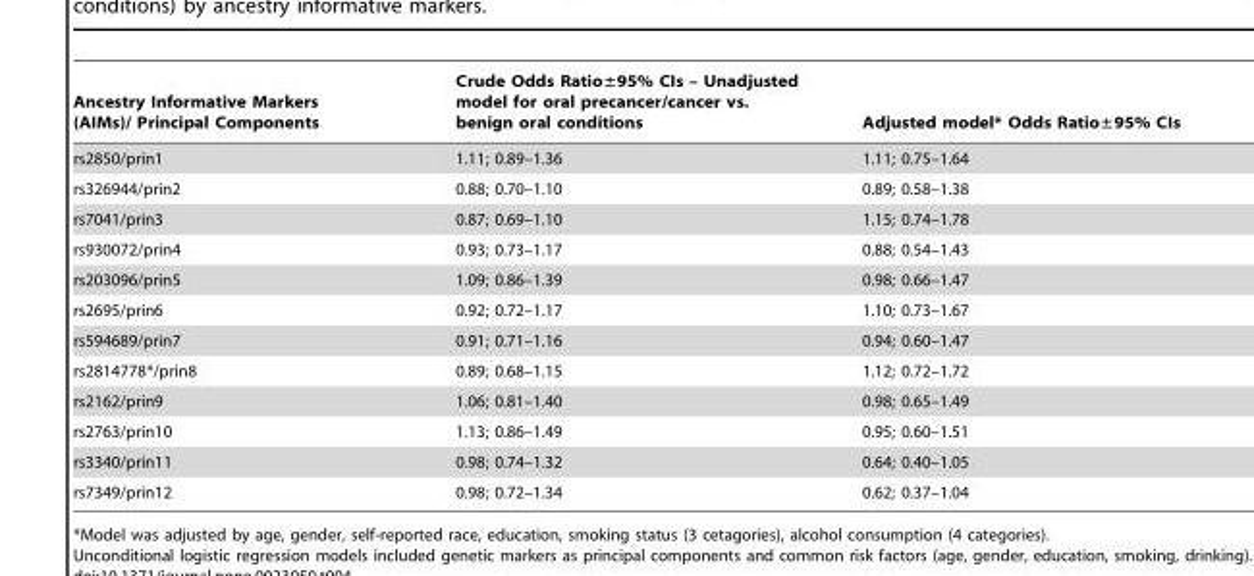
<table><thead><tr><td>Ancestry Informative Markers (AIMs)/ Principal Components</td><td>Crude Odds Ratio±95% CIs – Unadjusted model for oral precancer/cancer vs. benign oral conditions</td><td>Adjusted model* Odds Ratio±95% CIs</td></tr></thead><tbody><tr><td>rs2850/prin1</td><td>1.11; 0.89–1.36</td><td>1.11; 0.75–1.64</td></tr><tr><td>rs326944/prin2</td><td>0.88; 0.70–1.10</td><td>0.89; 0.58–1.38</td></tr><tr><td>rs7041/prin3</td><td>0.87; 0.69–1.10</td><td>1.15; 0.74–1.78</td></tr><tr><td>rs930072/prin4</td><td>0.93; 0.73–1.17</td><td>0.88; 0.54–1.43</td></tr><tr><td>rs203096/prin5</td><td>1.09; 0.86–1.39</td><td>0.98; 0.66–1.47</td></tr><tr><td>rs2695/prin6</td><td>0.92; 0.72–1.17</td><td>1.10; 0.73–1.67</td></tr><tr><td>rs594689/prin7</td><td>0.91; 0.71–1.16</td><td>0.94; 0.60–1.47</td></tr><tr><td>rs2814778*/prin8</td><td>0.89; 0.68–1.15</td><td>1.12; 0.72–1.72</td></tr><tr><td>rs2162/prin9</td><td>1.06; 0.81–1.40</td><td>0.98; 0.65–1.49</td></tr><tr><td>rs2763/prin10</td><td>1.13; 0.86–1.49</td><td>0.95; 0.60–1.51</td></tr><tr><td>rs3340/prin11</td><td>0.98; 0.74–1.32</td><td>0.64; 0.40–1.05</td></tr><tr><td>rs7349/prin12</td><td>0.98; 0.72–1.34</td><td>0.62; 0.37–1.04</td></tr></tbody></table>